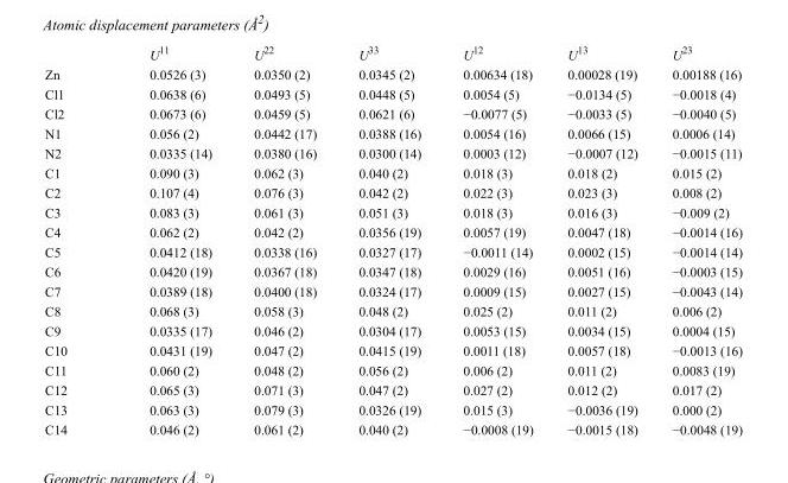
<table><thead><tr><td></td><td>U<sup>11</sup></td><td>U<sup>22</sup></td><td>U<sup>33</sup></td><td>U<sup>12</sup></td><td>U<sup>13</sup></td><td>U<sup>23</sup></td></tr></thead><tbody><tr><td>Zn</td><td>0.0526 (3)</td><td>0.0350 (2)</td><td>0.0345 (2)</td><td>0.00634 (18)</td><td>0.00028 (19)</td><td>0.00188 (16)</td></tr><tr><td>Cl1</td><td>0.0638 (6)</td><td>0.0493 (5)</td><td>0.0448 (5)</td><td>0.0054 (5)</td><td>−0.0134 (5)</td><td>−0.0018 (4)</td></tr><tr><td>Cl2</td><td>0.0673 (6)</td><td>0.0459 (5)</td><td>0.0621 (6)</td><td>−0.0077 (5)</td><td>−0.0033 (5)</td><td>−0.0040 (5)</td></tr><tr><td>N1</td><td>0.056 (2)</td><td>0.0442 (17)</td><td>0.0388 (16)</td><td>0.0054 (16)</td><td>0.0066 (15)</td><td>0.0006 (14)</td></tr><tr><td>N2</td><td>0.0335 (14)</td><td>0.0380 (16)</td><td>0.0300 (14)</td><td>0.0003 (12)</td><td>−0.0007 (12)</td><td>−0.0015 (11)</td></tr><tr><td>C1</td><td>0.090 (3)</td><td>0.062 (3)</td><td>0.040 (2)</td><td>0.018 (3)</td><td>0.018 (2)</td><td>0.015 (2)</td></tr><tr><td>C2</td><td>0.107 (4)</td><td>0.076 (3)</td><td>0.042 (2)</td><td>0.022 (3)</td><td>0.023 (3)</td><td>0.008 (2)</td></tr><tr><td>C3</td><td>0.083 (3)</td><td>0.061 (3)</td><td>0.051 (3)</td><td>0.018 (3)</td><td>0.016 (3)</td><td>−0.009 (2)</td></tr><tr><td>C4</td><td>0.062 (2)</td><td>0.042 (2)</td><td>0.0356 (19)</td><td>0.0057 (19)</td><td>0.0047 (18)</td><td>−0.0014 (16)</td></tr><tr><td>C5</td><td>0.0412 (18)</td><td>0.0338 (16)</td><td>0.0327 (17)</td><td>−0.0011 (14)</td><td>0.0002 (15)</td><td>−0.0014 (14)</td></tr><tr><td>C6</td><td>0.0420 (19)</td><td>0.0367 (18)</td><td>0.0347 (18)</td><td>0.0029 (16)</td><td>0.0051 (16)</td><td>−0.0003 (15)</td></tr><tr><td>C7</td><td>0.0389 (18)</td><td>0.0400 (18)</td><td>0.0324 (17)</td><td>0.0009 (15)</td><td>0.0027 (15)</td><td>−0.0043 (14)</td></tr><tr><td>C8</td><td>0.068 (3)</td><td>0.058 (3)</td><td>0.048 (2)</td><td>0.025 (2)</td><td>0.011 (2)</td><td>0.006 (2)</td></tr><tr><td>C9</td><td>0.0335 (17)</td><td>0.046 (2)</td><td>0.0304 (17)</td><td>0.0053 (15)</td><td>0.0034 (15)</td><td>0.0004 (15)</td></tr><tr><td>C10</td><td>0.0431 (19)</td><td>0.047 (2)</td><td>0.0415 (19)</td><td>0.0011 (18)</td><td>0.0057 (18)</td><td>−0.0013 (16)</td></tr><tr><td>C11</td><td>0.060 (2)</td><td>0.048 (2)</td><td>0.056 (2)</td><td>0.006 (2)</td><td>0.011 (2)</td><td>0.0083 (19)</td></tr><tr><td>C12</td><td>0.065 (3)</td><td>0.071 (3)</td><td>0.047 (2)</td><td>0.027 (2)</td><td>0.012 (2)</td><td>0.017 (2)</td></tr><tr><td>C13</td><td>0.063 (3)</td><td>0.079 (3)</td><td>0.0326 (19)</td><td>0.015 (3)</td><td>−0.0036 (19)</td><td>0.000 (2)</td></tr><tr><td>C14</td><td>0.046 (2)</td><td>0.061 (2)</td><td>0.040 (2)</td><td>−0.0008 (19)</td><td>−0.0015 (18)</td><td>−0.0048 (19)</td></tr></tbody></table>